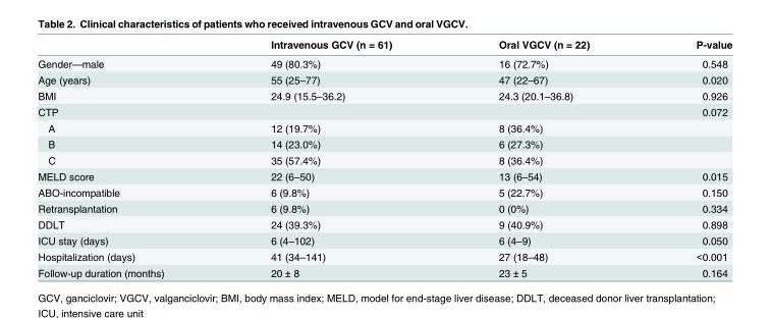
<table><thead><tr><td></td><td>Intravenous GCV (n = 61)</td><td>Oral VGCV (n = 22)</td><td>P-value</td></tr></thead><tbody><tr><td>Gender—male</td><td>49 (80.3%)</td><td>16 (72.7%)</td><td>0.548</td></tr><tr><td>Age (years)</td><td>55 (25–77)</td><td>47 (22–67)</td><td>0.020</td></tr><tr><td>BMI</td><td>24.9 (15.5–36.2)</td><td>24.3 (20.1–36.8)</td><td>0.926</td></tr><tr><td>CTP</td><td></td><td></td><td>0.072</td></tr><tr><td>A</td><td>12 (19.7%)</td><td>8 (36.4%)</td><td></td></tr><tr><td>B</td><td>14 (23.0%)</td><td>6 (27.3%)</td><td></td></tr><tr><td>C</td><td>35 (57.4%)</td><td>8 (36.4%)</td><td></td></tr><tr><td>MELD score</td><td>22 (6–50)</td><td>13 (6–54)</td><td>0.015</td></tr><tr><td>ABO-incompatible</td><td>6 (9.8%)</td><td>5 (22.7%)</td><td>0.150</td></tr><tr><td>Retransplantation</td><td>6 (9.8%)</td><td>0 (0%)</td><td>0.334</td></tr><tr><td>DDLT</td><td>24 (39.3%)</td><td>9 (40.9%)</td><td>0.898</td></tr><tr><td>ICU stay (days)</td><td>6 (4–102)</td><td>6 (4–9)</td><td>0.050</td></tr><tr><td>Hospitalization (days)</td><td>41 (34–141)</td><td>27 (18–48)</td><td>&lt;0.001</td></tr><tr><td>Follow-up duration (months)</td><td>20 ± 8</td><td>23 ± 5</td><td>0.164</td></tr></tbody></table>